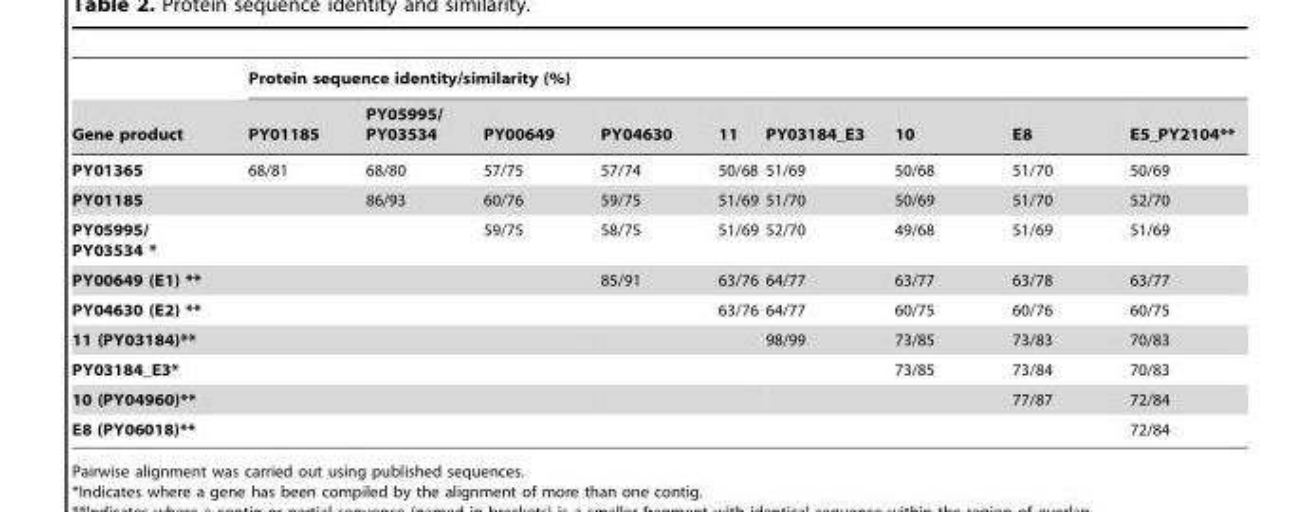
<table><thead><tr><td rowspan="2">Gene product</td><td colspan="9">Protein sequence identity/similarity (%)</td></tr><tr><td>PY01185</td><td>PY05995/ PY03534</td><td>PY00649</td><td>PY04630</td><td>11</td><td>PY03184_E3</td><td>10</td><td>E8</td><td>E5_PY2104**</td></tr></thead><tbody><tr><td>PY01365</td><td>68/81</td><td>68/80</td><td>57/75</td><td>57/74</td><td>50/68</td><td>51/69</td><td>50/68</td><td>51/70</td><td>50/69</td></tr><tr><td>PY01185</td><td></td><td>86/93</td><td>60/76</td><td>59/75</td><td>51/69</td><td>51/70</td><td>50/69</td><td>51/70</td><td>52/70</td></tr><tr><td>PY05995/ PY03534 *</td><td></td><td></td><td>59/75</td><td>58/75</td><td>51/69</td><td>52/70</td><td>49/68</td><td>51/69</td><td>51/69</td></tr><tr><td>PY00649 (E1) **</td><td></td><td></td><td></td><td>85/91</td><td>63/76</td><td>64/77</td><td>63/77</td><td>63/78</td><td>63/77</td></tr><tr><td>PY04630 (E2) **</td><td></td><td></td><td></td><td></td><td>63/76</td><td>64/77</td><td>60/75</td><td>60/76</td><td>60/75</td></tr><tr><td>11 (PY03184)**</td><td></td><td></td><td></td><td></td><td></td><td>98/99</td><td>73/85</td><td>73/83</td><td>70/83</td></tr><tr><td>PY03184_E3*</td><td></td><td></td><td></td><td></td><td></td><td></td><td>73/85</td><td>73/84</td><td>70/83</td></tr><tr><td>10 (PY04960)**</td><td></td><td></td><td></td><td></td><td></td><td></td><td></td><td>77/87</td><td>72/84</td></tr><tr><td>E8 (PY06018)**</td><td></td><td></td><td></td><td></td><td></td><td></td><td></td><td></td><td>72/84</td></tr></tbody></table>